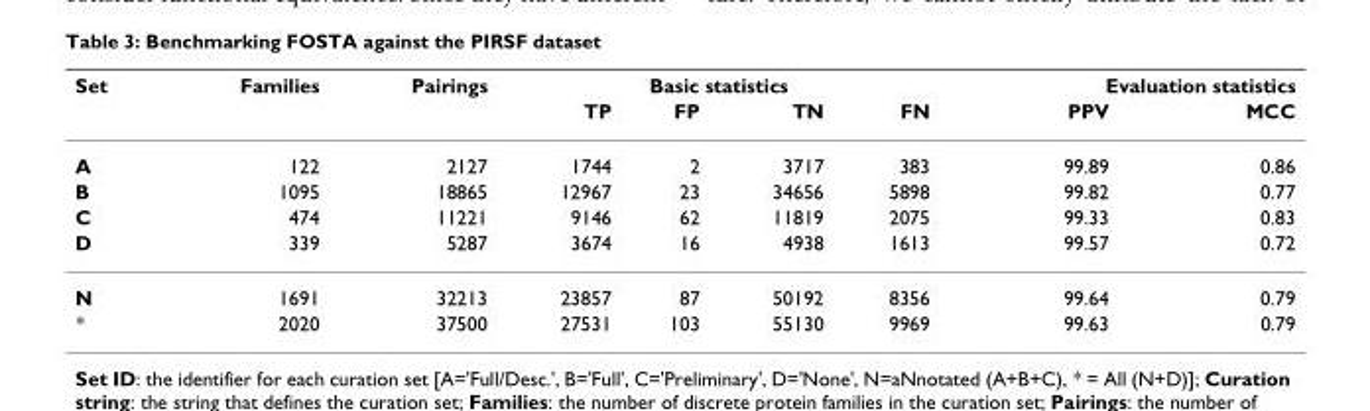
<table><thead><tr><td rowspan="2">Set</td><td rowspan="2">Families</td><td rowspan="2">Pairings</td><td colspan="4">Basic statistics</td><td colspan="2">Evaluation statistics</td></tr><tr><td>TP</td><td>FP</td><td>TN</td><td>FN</td><td>PPV</td><td>MCC</td></tr></thead><tbody><tr><td>A</td><td>122</td><td>2127</td><td>1744</td><td>2</td><td>3717</td><td>383</td><td>99.89</td><td>0.86</td></tr><tr><td>B</td><td>1095</td><td>18865</td><td>12967</td><td>23</td><td>34656</td><td>5898</td><td>99.82</td><td>0.77</td></tr><tr><td>C</td><td>474</td><td>11221</td><td>9146</td><td>62</td><td>11819</td><td>2075</td><td>99.33</td><td>0.83</td></tr><tr><td>D</td><td>339</td><td>5287</td><td>3674</td><td>16</td><td>4938</td><td>1613</td><td>99.57</td><td>0.72</td></tr><tr><td>N</td><td>1691</td><td>32213</td><td>23857</td><td>87</td><td>50192</td><td>8356</td><td>99.64</td><td>0.79</td></tr><tr><td>*</td><td>2020</td><td>37500</td><td>27531</td><td>103</td><td>55130</td><td>9969</td><td>99.63</td><td>0.79</td></tr></tbody></table>